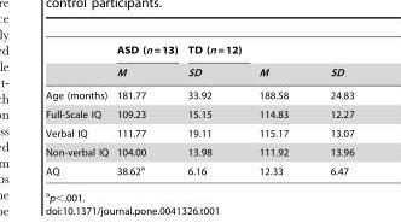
<table><thead><tr><td rowspan="2"></td><td rowspan="2">ASD (n = 13) M</td><td rowspan="2">TD (n = 12) SD</td><td rowspan="2">M</td><td rowspan="2">SD</td></tr><tr></tr></thead><tbody><tr><td>Age (months)</td><td>181.77</td><td>33.92</td><td>188.58</td><td>24.83</td></tr><tr><td>Full-Scale IQ</td><td>109.23</td><td>15.15</td><td>114.83</td><td>12.27</td></tr><tr><td>Verbal IQ</td><td>111.77</td><td>19.11</td><td>115.17</td><td>13.07</td></tr><tr><td>Non-verbal IQ</td><td>104.00</td><td>13.98</td><td>111.92</td><td>13.96</td></tr><tr><td>AQ</td><td>38.62<sup>a</sup></td><td>6.16</td><td>12.33</td><td>6.47</td></tr></tbody></table>